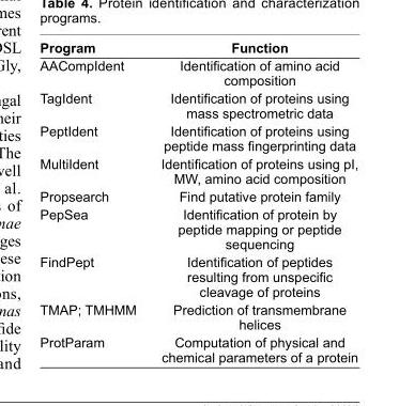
<table><thead><tr><td>Program</td><td>Function</td></tr></thead><tbody><tr><td>AACompIdent</td><td>Identifi cation of amino acid composition</td></tr><tr><td>TagIdent</td><td>Identifi cation of proteins using mass spectrometric data</td></tr><tr><td>PeptIdent</td><td>Identifi cation of proteins using peptide mass fi ngerprinting data</td></tr><tr><td>MultiIdent</td><td>Identifi cation of proteins using pI, MW, amino acid composition</td></tr><tr><td>Propsearch</td><td>Find putative protein family</td></tr><tr><td>PepSea</td><td>Identifi cation of protein by peptide mapping or peptide sequencing</td></tr><tr><td>FindPept</td><td>Identifi cation of peptides resulting from unspecifi c cleavage of proteins</td></tr><tr><td>TMAP; TMHMM</td><td>Prediction of transmembrane helices</td></tr><tr><td>ProtParam</td><td>Computation of physical and chemical parameters of a protein</td></tr></tbody></table>